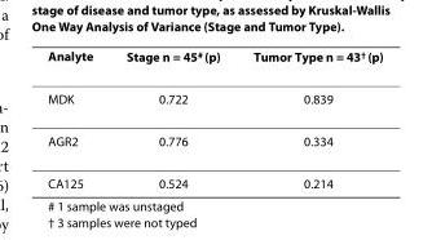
<table><thead><tr><td>Analyte</td><td>Stage n = 45<sup>#</sup> (p)</td><td>Tumor Type n = 43<sup>†</sup> (p)</td></tr></thead><tbody><tr><td>MDK</td><td>0.722</td><td>0.839</td></tr><tr><td>AGR2</td><td>0.776</td><td>0.334</td></tr><tr><td>CA125</td><td>0.524</td><td>0.214</td></tr></tbody></table>